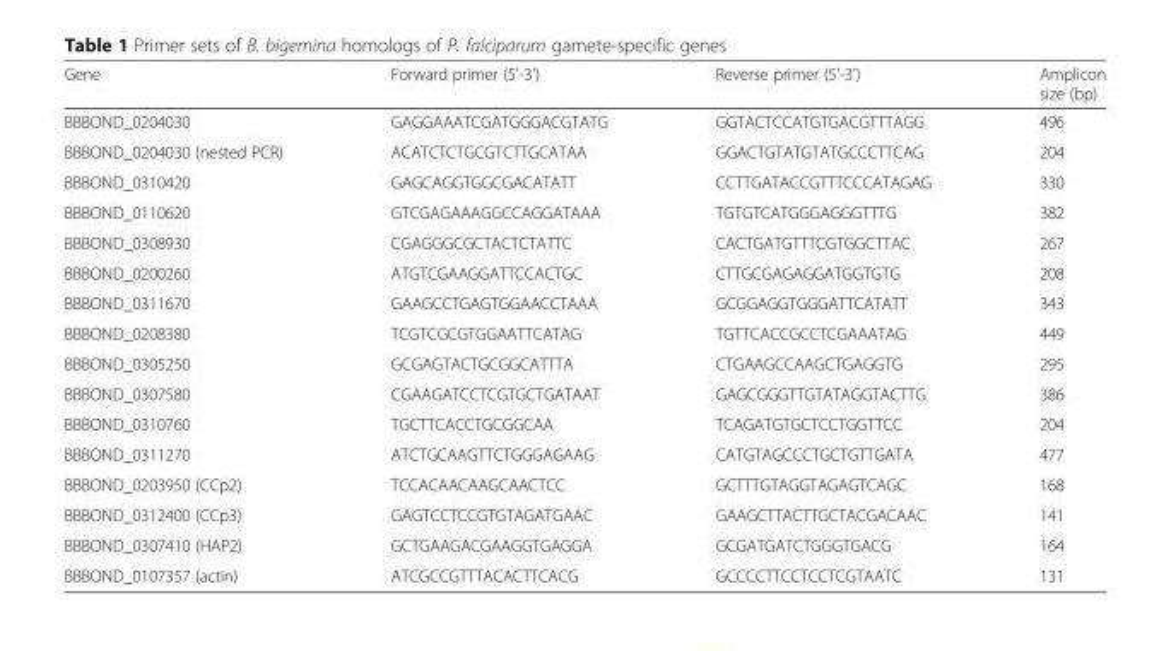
<table><thead><tr><td>Gene</td><td>Forward primer (5&#x27;-3&#x27;)</td><td>Reverse primer (5&#x27;-3&#x27;)</td><td>Amplicon size (bp)</td></tr></thead><tbody><tr><td>BBBOND_0204030</td><td>GAGGAAATCGATGGGACGTATG</td><td>GGTACTCCATGTGACGTTTAGG</td><td>496</td></tr><tr><td>BBBOND_0204030 (nested PCR)</td><td>ACATCTCTGCGTCTTGCATAA</td><td>GGACTGTATGTATGCCCTTCAG</td><td>204</td></tr><tr><td>BBBOND_0310420</td><td>GAGCAGGTGGCGACATATT</td><td>CCTTGATACCGTTTCCCATAGAG</td><td>330</td></tr><tr><td>BBBOND_0110620</td><td>GTCGAGAAAGGCCAGGATAAA</td><td>TGTGTCATGGGAGGGTTTG</td><td>382</td></tr><tr><td>BBBOND_0308930</td><td>CGAGGGCGCTACTCTATTC</td><td>CACTGATGTTTCGTGGCTTAC</td><td>267</td></tr><tr><td>BBBOND_0200260</td><td>ATGTCGAAGGATTCCACTGC</td><td>CTTGCGAGAGGATGGTGTG</td><td>208</td></tr><tr><td>BBBOND_0311670</td><td>GAAGCCTGAGTGGAACCTAAA</td><td>GCGGAGGTGGGATTCATATT</td><td>343</td></tr><tr><td>BBBOND_0208380</td><td>TCGTCGCGTGGAATTCATAG</td><td>TGTTCACCGCCTCGAAATAG</td><td>449</td></tr><tr><td>BBBOND_0305250</td><td>GCGAGTACTGCGGCATTTA</td><td>CTGAAGCCAAGCTGAGGTG</td><td>295</td></tr><tr><td>BBBOND_0307580</td><td>CGAAGATCCTCGTGCTGATAAT</td><td>GAGCGGGTTGTATAGGTACTTG</td><td>386</td></tr><tr><td>BBBOND_0310760</td><td>TGCTTCACCTGCGGCAA</td><td>TCAGATGTGCTCCTGGTTCC</td><td>204</td></tr><tr><td>BBBOND_0311270</td><td>ATCTGCAAGTTCTGGGAGAAG</td><td>CATGTAGCCCTGCTGTTGATA</td><td>477</td></tr><tr><td>BBBOND_0203950 (CCp2)</td><td>TCCACAACAAGCAACTCC</td><td>GCTTTGTAGGTAGAGTCAGC</td><td>168</td></tr><tr><td>BBBOND_0312400 (CCp3)</td><td>GAGTCCTCCGTGTAGATGAAC</td><td>GAAGCTTACTTGCTACGACAAC</td><td>141</td></tr><tr><td>BBBOND_0307410 (HAP2)</td><td>GCTGAAGACGAAGGTGAGGA</td><td>GCGATGATCTGGGTGACG</td><td>164</td></tr><tr><td>BBBOND_0107357 (actin)</td><td>ATCGCCGTTTACACTTCACG</td><td>GCCCCTTCCTCCTCGTAATC</td><td>131</td></tr></tbody></table>